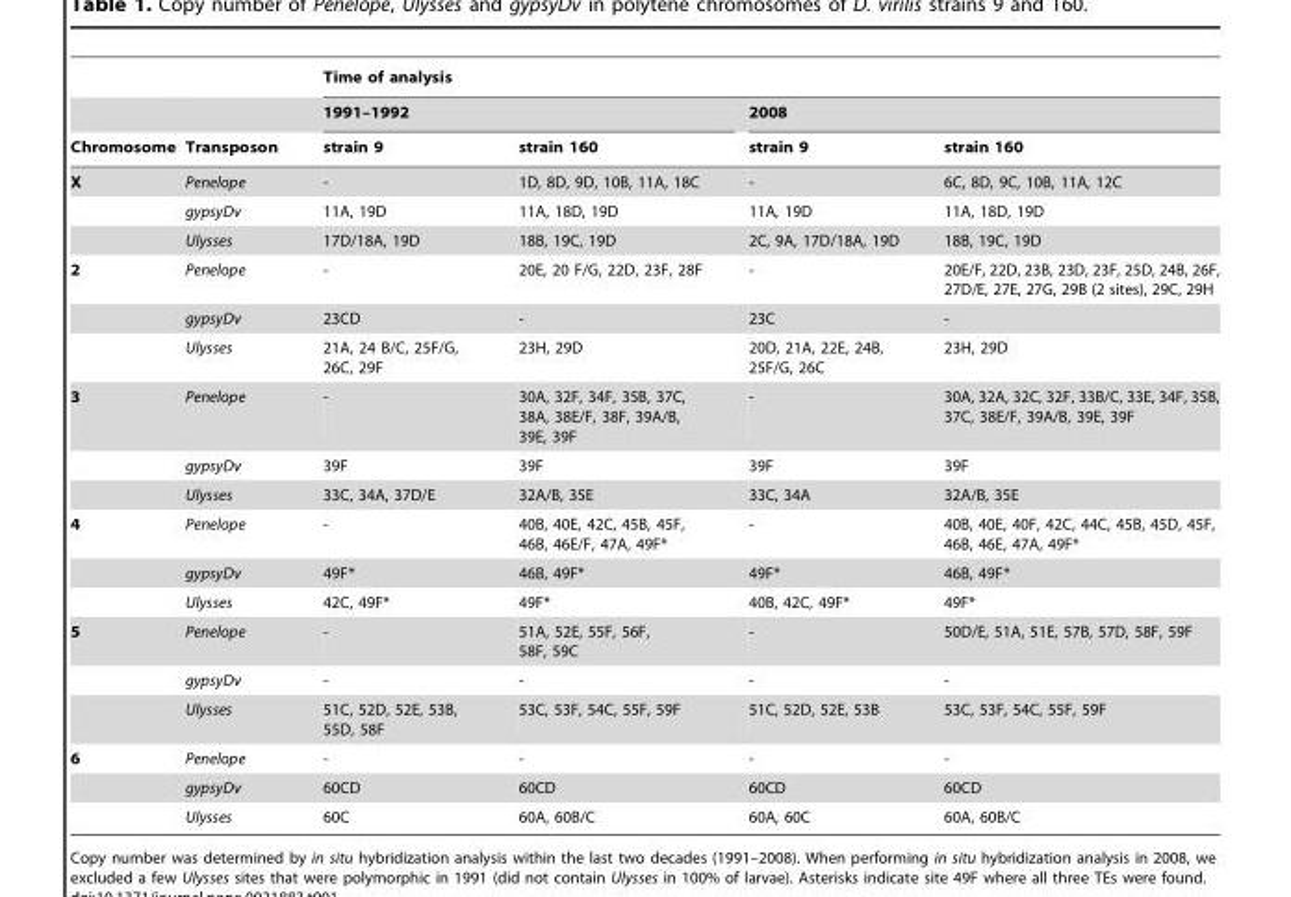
<table><thead><tr><td rowspan="3">Chromosome</td><td rowspan="3">Transposon</td><td colspan="4">Time of analysis</td></tr><tr><td colspan="2">1991–1992</td><td colspan="2">2008</td></tr><tr><td>strain 9</td><td>strain 160</td><td>strain 9</td><td>strain 160</td></tr></thead><tbody><tr><td rowspan="3">X</td><td>Penelope</td><td>-</td><td>1D, 8D, 9D, 10B, 11A, 18C</td><td>-</td><td>6C, 8D, 9C, 10B, 11A, 12C</td></tr><tr><td>gypsyDv</td><td>11A, 19D</td><td>11A, 18D, 19D</td><td>11A, 19D</td><td>11A, 18D, 19D</td></tr><tr><td>Ulysses</td><td>17D/18A, 19D</td><td>18B, 19C, 19D</td><td>2C, 9A, 17D/18A, 19D</td><td>18B, 19C, 19D</td></tr><tr><td rowspan="3">2</td><td>Penelope</td><td>-</td><td>20E, 20 F/G, 22D, 23F, 28F</td><td>-</td><td>20E/F, 22D, 23B, 23D, 23F, 25D, 24B, 26F, 27D/E, 27E, 27G, 29B (2 sites), 29C, 29H</td></tr><tr><td>gypsyDv</td><td>23CD</td><td>-</td><td>23C</td><td>-</td></tr><tr><td>Ulysses</td><td>21A, 24 B/C, 25F/G, 26C, 29F</td><td>23H, 29D</td><td>20D, 21A, 22E, 24B, 25F/G, 26C</td><td>23H, 29D</td></tr><tr><td rowspan="3">3</td><td>Penelope</td><td>-</td><td>30A, 32F, 34F, 35B, 37C, 38A, 38E/F, 38F, 39A/B, 39E, 39F</td><td>-</td><td>30A, 32A, 32C, 32F, 33B/C, 33E, 34F, 35B, 37C, 38E/F, 39A/B, 39E, 39F</td></tr><tr><td>gypsyDv</td><td>39F</td><td>39F</td><td>39F</td><td>39F</td></tr><tr><td>Ulysses</td><td>33C, 34A, 37D/E</td><td>32A/B, 35E</td><td>33C, 34A</td><td>32A/B, 35E</td></tr><tr><td rowspan="3">4</td><td>Penelope</td><td>-</td><td>40B, 40E, 42C, 45B, 45F, 46B, 46E/F, 47A, 49F*</td><td>-</td><td>40B, 40E, 40F, 42C, 44C, 45B, 45D, 45F, 46B, 46E, 47A, 49F*</td></tr><tr><td>gypsyDv</td><td>49F*</td><td>46B, 49F*</td><td>49F*</td><td>46B, 49F*</td></tr><tr><td>Ulysses</td><td>42C, 49F*</td><td>49F*</td><td>40B, 42C, 49F*</td><td>49F*</td></tr><tr><td rowspan="3">5</td><td>Penelope</td><td>-</td><td>51A, 52E, 55F, 56F, 58F, 59C</td><td>-</td><td>50D/E, 51A, 51E, 57B, 57D, 58F, 59F</td></tr><tr><td>gypsyDv</td><td>-</td><td>-</td><td>-</td><td>-</td></tr><tr><td>Ulysses</td><td>51C, 52D, 52E, 53B, 55D, 58F</td><td>53C, 53F, 54C, 55F, 59F</td><td>51C, 52D, 52E, 53B</td><td>53C, 53F, 54C, 55F, 59F</td></tr><tr><td rowspan="3">6</td><td>Penelope</td><td>-</td><td>-</td><td>-</td><td>-</td></tr><tr><td>gypsyDv</td><td>60CD</td><td>60CD</td><td>60CD</td><td>60CD</td></tr><tr><td>Ulysses</td><td>60C</td><td>60A, 60B/C</td><td>60A, 60C</td><td>60A, 60B/C</td></tr></tbody></table>